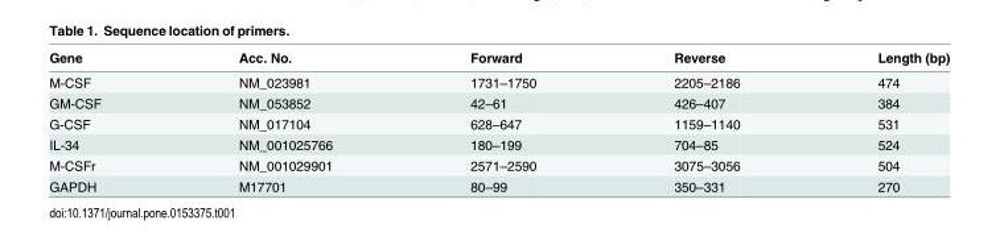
<table><thead><tr><td>Gene</td><td>Acc. No.</td><td>Forward</td><td>Reverse</td><td>Length (bp)</td></tr></thead><tbody><tr><td>M-CSF</td><td>NM_023981</td><td>1731–1750</td><td>2205–2186</td><td>474</td></tr><tr><td>GM-CSF</td><td>NM_053852</td><td>42–61</td><td>426–407</td><td>384</td></tr><tr><td>G-CSF</td><td>NM_017104</td><td>628–647</td><td>1159–1140</td><td>531</td></tr><tr><td>IL-34</td><td>NM_001025766</td><td>180–199</td><td>704–85</td><td>524</td></tr><tr><td>M-CSFr</td><td>NM_001029901</td><td>2571–2590</td><td>3075–3056</td><td>504</td></tr><tr><td>GAPDH</td><td>M17701</td><td>80–99</td><td>350–331</td><td>270</td></tr></tbody></table>